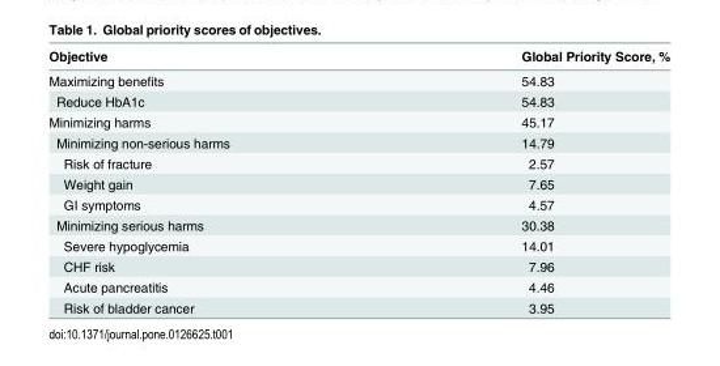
<table><thead><tr><td>Objective</td><td>Global Priority Score, %</td></tr></thead><tbody><tr><td>Maximizing benefits</td><td>54.83</td></tr><tr><td>Reduce HbA1c</td><td>54.83</td></tr><tr><td>Minimizing harms</td><td>45.17</td></tr><tr><td>Minimizing non-serious harms</td><td>14.79</td></tr><tr><td>Risk of fracture</td><td>2.57</td></tr><tr><td>Weight gain</td><td>7.65</td></tr><tr><td>GI symptoms</td><td>4.57</td></tr><tr><td>Minimizing serious harms</td><td>30.38</td></tr><tr><td>Severe hypoglycemia</td><td>14.01</td></tr><tr><td>CHF risk</td><td>7.96</td></tr><tr><td>Acute pancreatitis</td><td>4.46</td></tr><tr><td>Risk of bladder cancer</td><td>3.95</td></tr></tbody></table>